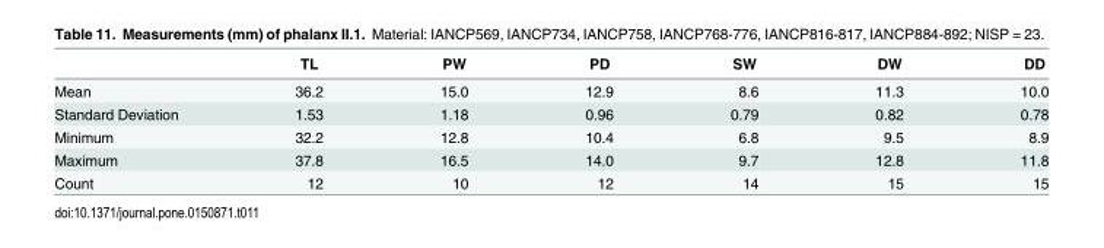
<table><thead><tr><td></td><td>TL</td><td>PW</td><td>PD</td><td>SW</td><td>DW</td><td>DD</td></tr></thead><tbody><tr><td>Mean</td><td>36.2</td><td>15.0</td><td>12.9</td><td>8.6</td><td>11.3</td><td>10.0</td></tr><tr><td>Standard Deviation</td><td>1.53</td><td>1.18</td><td>0.96</td><td>0.79</td><td>0.82</td><td>0.78</td></tr><tr><td>Minimum</td><td>32.2</td><td>12.8</td><td>10.4</td><td>6.8</td><td>9.5</td><td>8.9</td></tr><tr><td>Maximum</td><td>37.8</td><td>16.5</td><td>14.0</td><td>9.7</td><td>12.8</td><td>11.8</td></tr><tr><td>Count</td><td>12</td><td>10</td><td>12</td><td>14</td><td>15</td><td>15</td></tr></tbody></table>